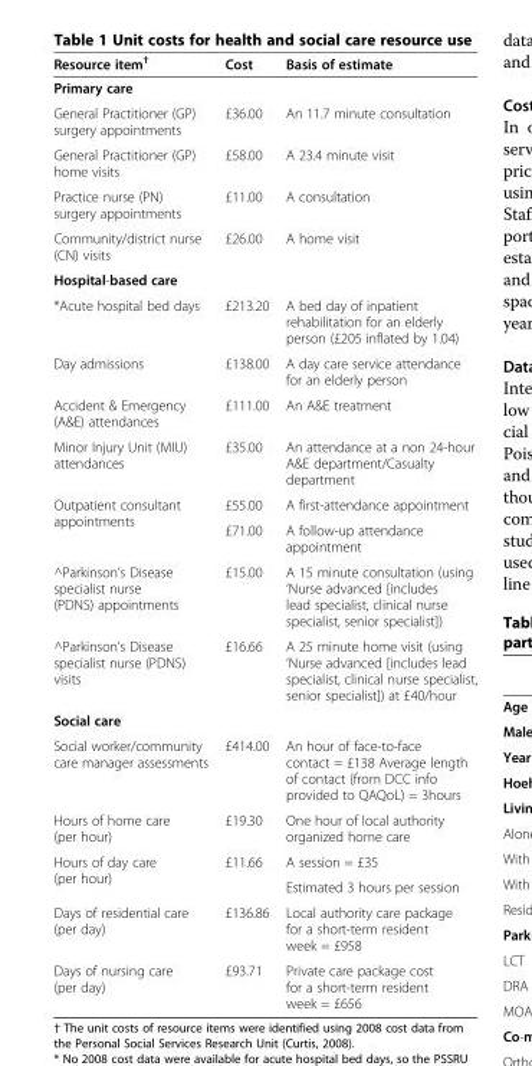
<table><thead><tr><td>Resource item<sup>†</sup></td><td>Cost</td><td>Basis of estimate</td></tr></thead><tbody><tr><td colspan="3">Primary care</td></tr><tr><td>General Practitioner (GP) surgery appointments</td><td>£36.00</td><td>An 11.7 minute consultation</td></tr><tr><td>General Practitioner (GP) home visits</td><td>£58.00</td><td>A 23.4 minute visit</td></tr><tr><td>Practice nurse (PN) surgery appointments</td><td>£11.00</td><td>A consultation</td></tr><tr><td>Community/district nurse (CN) visits</td><td>£26.00</td><td>A home visit</td></tr><tr><td colspan="3">Hospital-based care</td></tr><tr><td>*Acute hospital bed days</td><td>£213.20</td><td>A bed day of inpatient rehabilitation for an elderly person (£205 inflated by 1.04)</td></tr><tr><td>Day admissions</td><td>£138.00</td><td>A day care service attendance for an elderly person</td></tr><tr><td>Accident &amp; Emergency (A&amp;E) attendances</td><td>£111.00</td><td>An A&amp;E treatment</td></tr><tr><td>Minor Injury Unit (MIU) attendances</td><td>£35.00</td><td>An attendance at a non 24-hour A&amp;E department/Casualty department</td></tr><tr><td rowspan="2">Outpatient consultant appointments</td><td>£55.00</td><td>A first-attendance appointment</td></tr><tr><td>£71.00</td><td>A follow-up attendance appointment</td></tr><tr><td>^Parkinson’s Disease specialist nurse (PDNS) appointments</td><td>£15.00</td><td>A 15 minute consultation (using ‘Nurse advanced [includes lead specialist, clinical nurse specialist, senior specialist])</td></tr><tr><td>^Parkinson’s Disease specialist nurse (PDNS) visits</td><td>£16.66</td><td>A 25 minute home visit (using ‘Nurse advanced [includes lead specialist, clinical nurse specialist, senior specialist]) at £40/hour</td></tr><tr><td colspan="3">Social care</td></tr><tr><td>Social worker/community care manager assessments</td><td>£414.00</td><td>An hour of face-to-face contact = £138 Average length of contact (from DCC info provided to QAQoL) = 3hours</td></tr><tr><td>Hours of home care (per hour)</td><td>£19.30</td><td>One hour of local authority organized home care</td></tr><tr><td rowspan="2">Hours of day care (per hour)</td><td rowspan="2">£11.66</td><td>A session = £35</td></tr><tr><td>Estimated 3 hours per session</td></tr><tr><td>Days of residential care (per day)</td><td>£136.86</td><td>Local authority care package for a short-term resident week = £958</td></tr><tr><td>Days of nursing care (per day)</td><td>£93.71</td><td>Private care package cost for a short-term resident week = £656</td></tr></tbody></table>